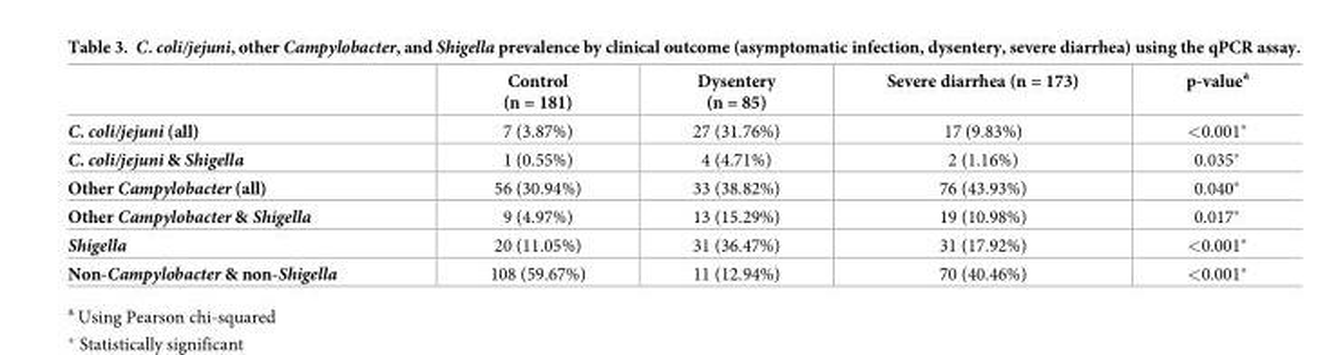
<table><thead><tr><td></td><td>Control (n = 181)</td><td>Dysentery (n = 85)</td><td>Severe diarrhea (n = 173)</td><td>p-value<sup>a</sup></td></tr></thead><tbody><tr><td>C. coli/jejuni (all)</td><td>7 (3.87%)</td><td>27 (31.76%)</td><td>17 (9.83%)</td><td>&lt;0.001*</td></tr><tr><td>C. coli/jejuni &amp; Shigella</td><td>1 (0.55%)</td><td>4 (4.71%)</td><td>2 (1.16%)</td><td>0.035*</td></tr><tr><td>Other Campylobacter (all)</td><td>56 (30.94%)</td><td>33 (38.82%)</td><td>76 (43.93%)</td><td>0.040*</td></tr><tr><td>Other Campylobacter &amp; Shigella</td><td>9 (4.97%)</td><td>13 (15.29%)</td><td>19 (10.98%)</td><td>0.017*</td></tr><tr><td>Shigella</td><td>20 (11.05%)</td><td>31 (36.47%)</td><td>31 (17.92%)</td><td>&lt;0.001*</td></tr><tr><td>Non-Campylobacter &amp; non-Shigella</td><td>108 (59.67%)</td><td>11 (12.94%)</td><td>70 (40.46%)</td><td>&lt;0.001*</td></tr></tbody></table>